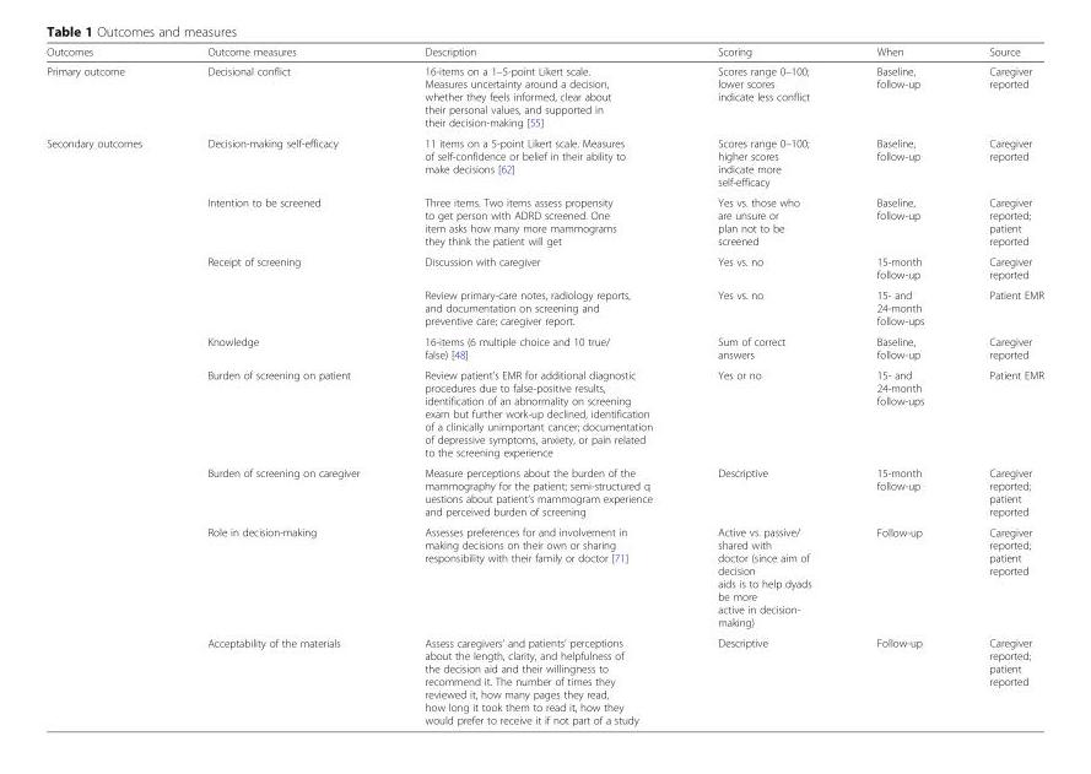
<table><thead><tr><td>Outcomes</td><td>Outcome measures</td><td>Description</td><td>Scoring</td><td>When</td><td>Source</td></tr></thead><tbody><tr><td>Primary outcome</td><td>Decisional conflict</td><td>16-items on a 1–5-point Likert scale. Measures uncertainty around a decision, whether they feels informed, clear about their personal values, and supported in their decision-making [55]</td><td>Scores range 0–100; lower scores indicate less conflict</td><td>Baseline, follow-up</td><td>Caregiver reported</td></tr><tr><td rowspan="9">Secondary outcomes</td><td>Decision-making self-efficacy</td><td>11 items on a 5-point Likert scale. Measures of self-confidence or belief in their ability to make decisions [62]</td><td>Scores range 0–100; higher scores indicate more self-efficacy</td><td>Baseline, follow-up</td><td>Caregiver reported</td></tr><tr><td>Intention to be screened</td><td>Three items. Two items assess propensity to get person with ADRD screened. One item asks how many more mammograms they think the patient will get</td><td>Yes vs. those who are unsure or plan not to be screened</td><td>Baseline, follow-up</td><td>Caregiver reported; patient reported</td></tr><tr><td rowspan="2">Receipt of screening</td><td>Discussion with caregiver</td><td>Yes vs. no</td><td>15-month follow-up</td><td>Caregiver reported</td></tr><tr><td>Review primary-care notes, radiology reports, and documentation on screening and preventive care; caregiver report.</td><td>Yes vs. no</td><td>15- and 24-month follow-ups</td><td>Patient EMR</td></tr><tr><td>Knowledge</td><td>16-items (6 multiple choice and 10 true/ false) [48]</td><td>Sum of correct answers</td><td>Baseline, follow-up</td><td>Caregiver reported</td></tr><tr><td>Burden of screening on patient</td><td>Review patient’s EMR for additional diagnostic procedures due to false-positive results, identification of an abnormality on screening exam but further work-up declined, identification of a clinically unimportant cancer; documentation of depressive symptoms, anxiety, or pain related to the screening experience</td><td>Yes or no</td><td>15- and 24-month follow-ups</td><td>Patient EMR</td></tr><tr><td>Burden of screening on caregiver</td><td>Measure perceptions about the burden of the mammography for the patient; semi-structured q uestions about patient’s mammogram experience and perceived burden of screening</td><td>Descriptive</td><td>15-month follow-up</td><td>Caregiver reported; patient reported</td></tr><tr><td>Role in decision-making</td><td>Assesses preferences for and involvement in making decisions on their own or sharing responsibility with their family or doctor [71]</td><td>Active vs. passive/ shared with doctor (since aim of decision aids is to help dyads be more active in decision- making)</td><td>Follow-up</td><td>Caregiver reported; patient reported</td></tr><tr><td>Acceptability of the materials</td><td>Assess caregivers’ and patients’ perceptions about the length, clarity, and helpfulness of the decision aid and their willingness to recommend it. The number of times they reviewed it, how many pages they read, how long it took them to read it, how they would prefer to receive it if not part of a study</td><td>Descriptive</td><td>Follow-up</td><td>Caregiver reported; patient reported</td></tr></tbody></table>